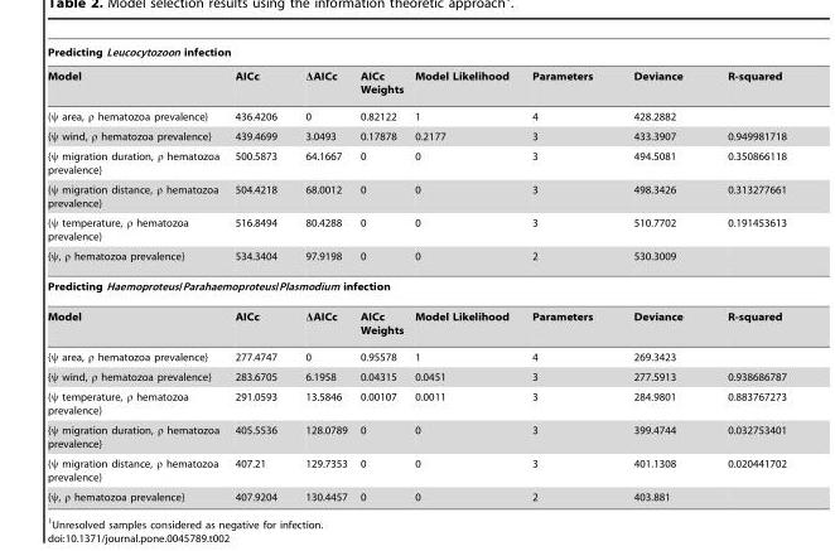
<table><thead><tr><td colspan="8">Predicting Leucocytozoon infection</td></tr><tr><td>Model</td><td>AICc</td><td>ΔAICc</td><td>AICc Weights</td><td>Model Likelihood</td><td>Parameters</td><td>Deviance</td><td>R-squared</td></tr></thead><tbody><tr><td>{ψ area, ρ hematozoa prevalence}</td><td>436.4206</td><td>0</td><td>0.82122</td><td>1</td><td>4</td><td>428.2882</td><td></td></tr><tr><td>{ψ wind, ρ hematozoa prevalence}</td><td>439.4699</td><td>3.0493</td><td>0.17878</td><td>0.2177</td><td>3</td><td>433.3907</td><td>0.949981718</td></tr><tr><td>{ψ migration duration, ρ hematozoa prevalence}</td><td>500.5873</td><td>64.1667</td><td>0</td><td>0</td><td>3</td><td>494.5081</td><td>0.350866118</td></tr><tr><td>{ψ migration distance, ρ hematozoa prevalence}</td><td>504.4218</td><td>68.0012</td><td>0</td><td>0</td><td>3</td><td>498.3426</td><td>0.313277661</td></tr><tr><td>{ψ temperature, ρ hematozoa prevalence}</td><td>516.8494</td><td>80.4288</td><td>0</td><td>0</td><td>3</td><td>510.7702</td><td>0.191453613</td></tr><tr><td>{ψ, ρ hematozoa prevalence}</td><td>534.3404</td><td>97.9198</td><td>0</td><td>0</td><td>2</td><td>530.3009</td><td></td></tr><tr><td colspan="8">Predicting Haemoproteus/Parahaemoproteus/Plasmodium infection</td></tr><tr><td>Model</td><td>AICc</td><td>ΔAICc</td><td>AICc Weights</td><td>Model Likelihood</td><td>Parameters</td><td>Deviance</td><td>R-squared</td></tr><tr><td>{ψ area, ρ hematozoa prevalence}</td><td>277.4747</td><td>0</td><td>0.95578</td><td>1</td><td>4</td><td>269.3423</td><td></td></tr><tr><td>{ψ wind, ρ hematozoa prevalence}</td><td>283.6705</td><td>6.1958</td><td>0.04315</td><td>0.0451</td><td>3</td><td>277.5913</td><td>0.938686787</td></tr><tr><td>{ψ temperature, ρ hematozoa prevalence}</td><td>291.0593</td><td>13.5846</td><td>0.00107</td><td>0.0011</td><td>3</td><td>284.9801</td><td>0.883767273</td></tr><tr><td>{ψ migration duration, ρ hematozoa prevalence}</td><td>405.5536</td><td>128.0789</td><td>0</td><td>0</td><td>3</td><td>399.4744</td><td>0.032753401</td></tr><tr><td>{ψ migration distance, ρ hematozoa prevalence}</td><td>407.21</td><td>129.7353</td><td>0</td><td>0</td><td>3</td><td>401.1308</td><td>0.020441702</td></tr><tr><td>{ψ, ρ hematozoa prevalence}</td><td>407.9204</td><td>130.4457</td><td>0</td><td>0</td><td>2</td><td>403.881</td><td></td></tr></tbody></table>